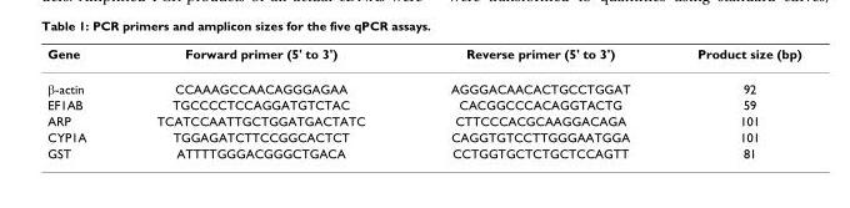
<table><thead><tr><td>Gene</td><td>Forward primer (5&#x27; to 3&#x27;)</td><td>Reverse primer (5&#x27; to 3&#x27;)</td><td>Product size (bp)</td></tr></thead><tbody><tr><td>β-actin</td><td>CCAAAGCCAACAGGGAGAA</td><td>AGGGACAACACTGCCTGGAT</td><td>92</td></tr><tr><td>EF1AB</td><td>TGCCCCTCCAGGATGTCTAC</td><td>CACGGCCCACAGGTACTG</td><td>59</td></tr><tr><td>ARP</td><td>TCATCCAATTGCTGGATGACTATC</td><td>CTTCCCACGCAAGGACAGA</td><td>101</td></tr><tr><td>CYP1A</td><td>TGGAGATCTTCCGGCACTCT</td><td>CAGGTGTCCTTGGGAATGGA</td><td>101</td></tr><tr><td>GST</td><td>ATTTTGGGACGGGCTGACA</td><td>CCTGGTGCTCTGCTCCAGTT</td><td>81</td></tr></tbody></table>